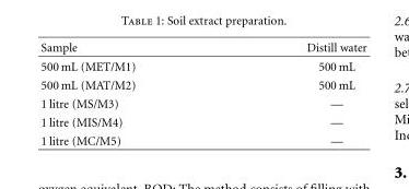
<table><thead><tr><td>Sample</td><td>Distill water</td></tr></thead><tbody><tr><td>500 mL (MET/M1)</td><td>500 mL</td></tr><tr><td>500 mL (MAT/M2)</td><td>500 mL</td></tr><tr><td>1 litre (MS/M3)</td><td>—</td></tr><tr><td>1 litre (MIS/M4)</td><td>—</td></tr><tr><td>1 litre (MC/M5)</td><td>—</td></tr></tbody></table>